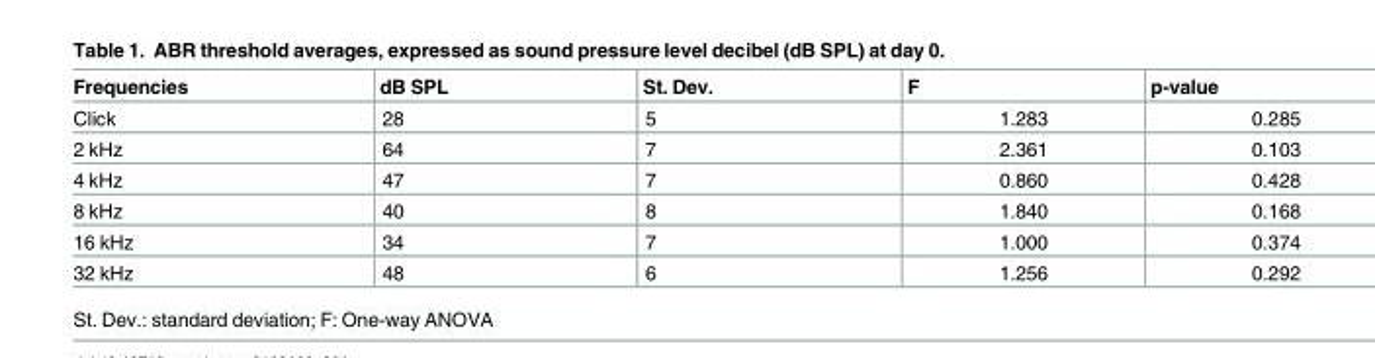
<table><thead><tr><td>Frequencies</td><td>dB SPL</td><td>St. Dev.</td><td>F</td><td>p-value</td></tr></thead><tbody><tr><td>Click</td><td>28</td><td>5</td><td>1.283</td><td>0.285</td></tr><tr><td>2 kHz</td><td>64</td><td>7</td><td>2.361</td><td>0.103</td></tr><tr><td>4 kHz</td><td>47</td><td>7</td><td>0.860</td><td>0.428</td></tr><tr><td>8 kHz</td><td>40</td><td>8</td><td>1.840</td><td>0.168</td></tr><tr><td>16 kHz</td><td>34</td><td>7</td><td>1.000</td><td>0.374</td></tr><tr><td>32 kHz</td><td>48</td><td>6</td><td>1.256</td><td>0.292</td></tr></tbody></table>